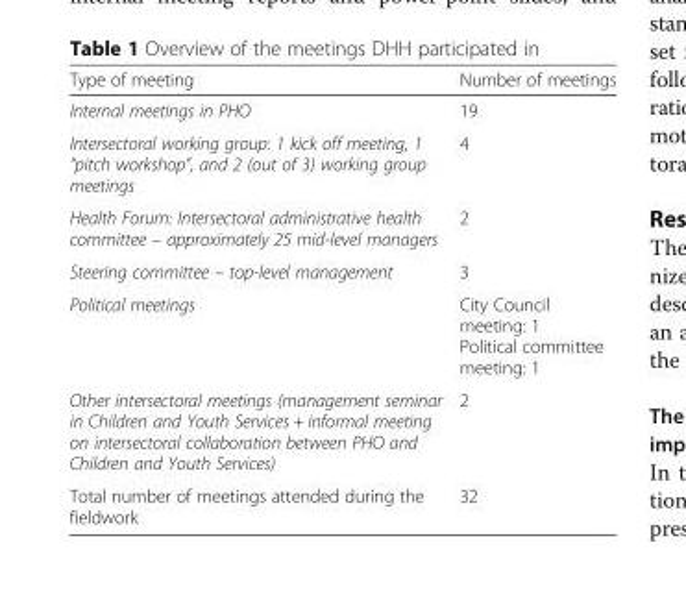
<table><thead><tr><td>Type of meeting</td><td>Number of meetings</td></tr></thead><tbody><tr><td>Internal meetings in PHO</td><td>19</td></tr><tr><td>Intersectoral working group: 1 kick off meeting, 1 “pitch workshop”, and 2 (out of 3) working group meetings</td><td>4</td></tr><tr><td>Health Forum: Intersectoral administrative health committee – approximately 25 mid-level managers</td><td>2</td></tr><tr><td>Steering committee – top-level management</td><td>3</td></tr><tr><td>Political meetings</td><td>City Council meeting: 1 Political committee meeting: 1</td></tr><tr><td>Other intersectoral meetings (management seminar in Children and Youth Services + informal meeting on intersectoral collaboration between PHO and Children and Youth Services)</td><td>2</td></tr><tr><td>Total number of meetings attended during the fieldwork</td><td>32</td></tr></tbody></table>